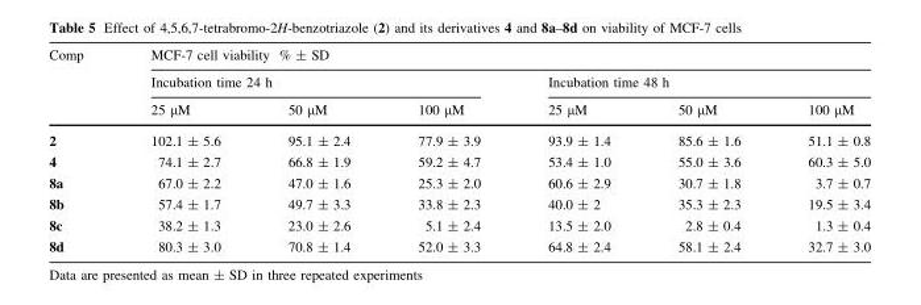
<table><thead><tr><td rowspan="3">Comp</td><td colspan="6">MCF-7 cell viability % ± SD</td></tr><tr><td colspan="3">Incubation time 24 h</td><td colspan="3">Incubation time 48 h</td></tr><tr><td>25 μM</td><td>50 μM</td><td>100 μM</td><td>25 μM</td><td>50 μM</td><td>100 μM</td></tr></thead><tbody><tr><td>2</td><td>102.1 ± 5.6</td><td>95.1 ± 2.4</td><td>77.9 ± 3.9</td><td>93.9 ± 1.4</td><td>85.6 ± 1.6</td><td>51.1 ± 0.8</td></tr><tr><td>4</td><td>74.1 ± 2.7</td><td>66.8 ± 1.9</td><td>59.2 ± 4.7</td><td>53.4 ± 1.0</td><td>55.0 ± 3.6</td><td>60.3 ± 5.0</td></tr><tr><td>8a</td><td>67.0 ± 2.2</td><td>47.0 ± 1.6</td><td>25.3 ± 2.0</td><td>60.6 ± 2.9</td><td>30.7 ± 1.8</td><td>3.7 ± 0.7</td></tr><tr><td>8b</td><td>57.4 ± 1.7</td><td>49.7 ± 3.3</td><td>33.8 ± 2.3</td><td>40.0 ± 2</td><td>35.3 ± 2.3</td><td>19.5 ± 3.4</td></tr><tr><td>8c</td><td>38.2 ± 1.3</td><td>23.0 ± 2.6</td><td>5.1 ± 2.4</td><td>13.5 ± 2.0</td><td>2.8 ± 0.4</td><td>1.3 ± 0.4</td></tr><tr><td>8d</td><td>80.3 ± 3.0</td><td>70.8 ± 1.4</td><td>52.0 ± 3.3</td><td>64.8 ± 2.4</td><td>58.1 ± 2.4</td><td>32.7 ± 3.0</td></tr></tbody></table>